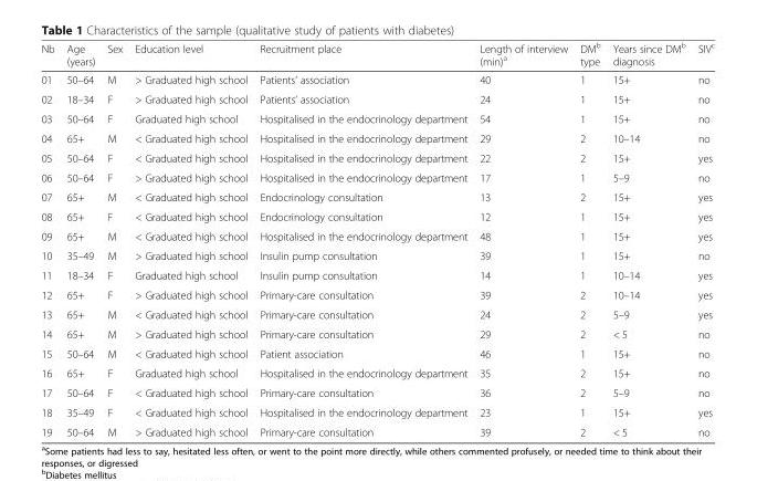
<table><thead><tr><td>Nb</td><td>Age (years)</td><td>Sex</td><td>Education level</td><td>Recruitment place</td><td>Length of interview (min)<sup>a</sup></td><td>DM<sup>b</sup> type</td><td>Years since DM<sup>b</sup> diagnosis</td><td>SIV<sup>c</sup></td></tr></thead><tbody><tr><td>01</td><td>50–64</td><td>M</td><td>&gt; Graduated high school</td><td>Patients’ association</td><td>40</td><td>1</td><td>15+</td><td>no</td></tr><tr><td>02</td><td>18–34</td><td>F</td><td>&gt; Graduated high school</td><td>Patients’ association</td><td>24</td><td>1</td><td>15+</td><td>no</td></tr><tr><td>03</td><td>50–64</td><td>F</td><td>Graduated high school</td><td>Hospitalised in the endocrinology department</td><td>54</td><td>1</td><td>15+</td><td>no</td></tr><tr><td>04</td><td>65+</td><td>M</td><td>&lt; Graduated high school</td><td>Hospitalised in the endocrinology department</td><td>29</td><td>2</td><td>10–14</td><td>no</td></tr><tr><td>05</td><td>50–64</td><td>F</td><td>&lt; Graduated high school</td><td>Hospitalised in the endocrinology department</td><td>22</td><td>2</td><td>15+</td><td>yes</td></tr><tr><td>06</td><td>50–64</td><td>F</td><td>&gt; Graduated high school</td><td>Hospitalised in the endocrinology department</td><td>17</td><td>1</td><td>5–9</td><td>no</td></tr><tr><td>07</td><td>65+</td><td>M</td><td>&lt; Graduated high school</td><td>Endocrinology consultation</td><td>13</td><td>2</td><td>15+</td><td>yes</td></tr><tr><td>08</td><td>65+</td><td>F</td><td>&lt; Graduated high school</td><td>Endocrinology consultation</td><td>12</td><td>1</td><td>15+</td><td>yes</td></tr><tr><td>09</td><td>65+</td><td>M</td><td>&lt; Graduated high school</td><td>Hospitalised in the endocrinology department</td><td>48</td><td>1</td><td>15+</td><td>yes</td></tr><tr><td>10</td><td>35–49</td><td>M</td><td>&gt; Graduated high school</td><td>Insulin pump consultation</td><td>39</td><td>1</td><td>15+</td><td>no</td></tr><tr><td>11</td><td>18–34</td><td>F</td><td>Graduated high school</td><td>Insulin pump consultation</td><td>14</td><td>1</td><td>10–14</td><td>yes</td></tr><tr><td>12</td><td>65+</td><td>F</td><td>&gt; Graduated high school</td><td>Primary-care consultation</td><td>39</td><td>2</td><td>10–14</td><td>yes</td></tr><tr><td>13</td><td>65+</td><td>M</td><td>&lt; Graduated high school</td><td>Primary-care consultation</td><td>24</td><td>2</td><td>5–9</td><td>yes</td></tr><tr><td>14</td><td>65+</td><td>M</td><td>&gt; Graduated high school</td><td>Primary-care consultation</td><td>29</td><td>2</td><td>&lt; 5</td><td>no</td></tr><tr><td>15</td><td>50–64</td><td>M</td><td>&lt; Graduated high school</td><td>Patient association</td><td>46</td><td>1</td><td>15+</td><td>no</td></tr><tr><td>16</td><td>65+</td><td>F</td><td>Graduated high school</td><td>Hospitalised in the endocrinology department</td><td>35</td><td>2</td><td>15+</td><td>no</td></tr><tr><td>17</td><td>50–64</td><td>F</td><td>&lt; Graduated high school</td><td>Primary-care consultation</td><td>36</td><td>2</td><td>5–9</td><td>no</td></tr><tr><td>18</td><td>35–49</td><td>F</td><td>&lt; Graduated high school</td><td>Hospitalised in the endocrinology department</td><td>23</td><td>1</td><td>15+</td><td>yes</td></tr><tr><td>19</td><td>50–64</td><td>M</td><td>&gt; Graduated high school</td><td>Primary-care consultation</td><td>39</td><td>2</td><td>&lt; 5</td><td>no</td></tr></tbody></table>